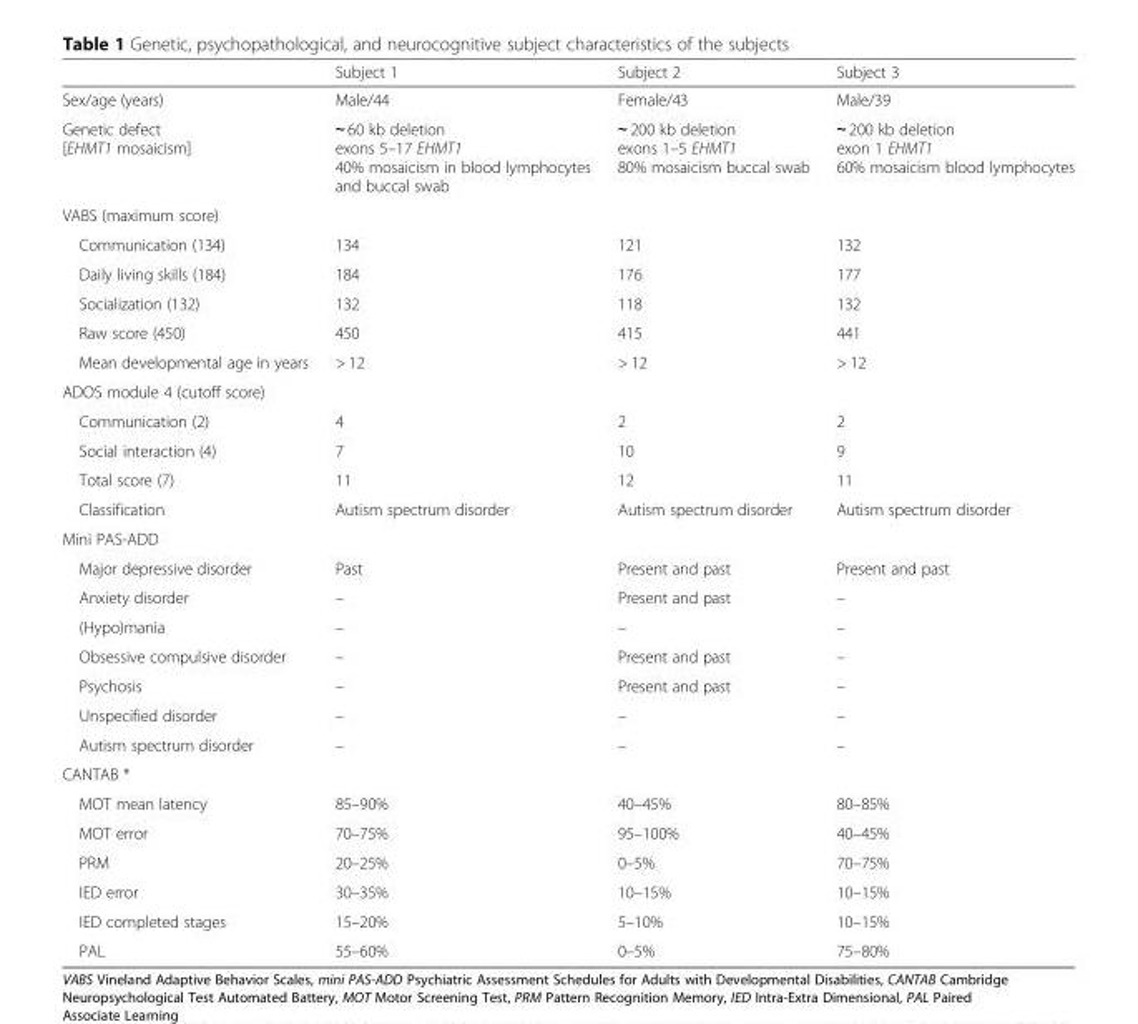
<table><thead><tr><td></td><td>Subject 1</td><td>Subject 2</td><td>Subject 3</td></tr></thead><tbody><tr><td>Sex/age (years)</td><td>Male/44</td><td>Female/43</td><td>Male/39</td></tr><tr><td>Genetic defect [EHMT1 mosaicism]</td><td>∼ 60 kb deletion exons 5–17 EHMT1 40% mosaicism in blood lymphocytes and buccal swab</td><td>∼ 200 kb deletion exons 1–5 EHMT1 80% mosaicism buccal swab</td><td>∼ 200 kb deletion exon 1 EHMT1 60% mosaicism blood lymphocytes</td></tr><tr><td colspan="4">VABS (maximum score)</td></tr><tr><td>Communication (134)</td><td>134</td><td>121</td><td>132</td></tr><tr><td>Daily living skills (184)</td><td>184</td><td>176</td><td>177</td></tr><tr><td>Socialization (132)</td><td>132</td><td>118</td><td>132</td></tr><tr><td>Raw score (450)</td><td>450</td><td>415</td><td>441</td></tr><tr><td>Mean developmental age in years</td><td>&gt; 12</td><td>&gt; 12</td><td>&gt; 12</td></tr><tr><td colspan="4">ADOS module 4 (cutoff score)</td></tr><tr><td>Communication (2)</td><td>4</td><td>2</td><td>2</td></tr><tr><td>Social interaction (4)</td><td>7</td><td>10</td><td>9</td></tr><tr><td>Total score (7)</td><td>11</td><td>12</td><td>11</td></tr><tr><td>Classification</td><td>Autism spectrum disorder</td><td>Autism spectrum disorder</td><td>Autism spectrum disorder</td></tr><tr><td colspan="4">Mini PAS-ADD</td></tr><tr><td>Major depressive disorder</td><td>Past</td><td>Present and past</td><td>Present and past</td></tr><tr><td>Anxiety disorder</td><td>–</td><td>Present and past</td><td>–</td></tr><tr><td>(Hypo)mania</td><td>–</td><td>–</td><td>–</td></tr><tr><td>Obsessive compulsive disorder</td><td>–</td><td>Present and past</td><td>–</td></tr><tr><td>Psychosis</td><td>–</td><td>Present and past</td><td>–</td></tr><tr><td>Unspecified disorder</td><td>–</td><td>–</td><td>–</td></tr><tr><td>Autism spectrum disorder</td><td>–</td><td>–</td><td>–</td></tr><tr><td colspan="4">CANTAB *</td></tr><tr><td>MOT mean latency</td><td>85–90%</td><td>40–45%</td><td>80–85%</td></tr><tr><td>MOT error</td><td>70–75%</td><td>95–100%</td><td>40–45%</td></tr><tr><td>PRM</td><td>20–25%</td><td>0–5%</td><td>70–75%</td></tr><tr><td>IED error</td><td>30–35%</td><td>10–15%</td><td>10–15%</td></tr><tr><td>IED completed stages</td><td>15–20%</td><td>5–10%</td><td>10–15%</td></tr><tr><td>PAL</td><td>55–60%</td><td>0–5%</td><td>75–80%</td></tr></tbody></table>